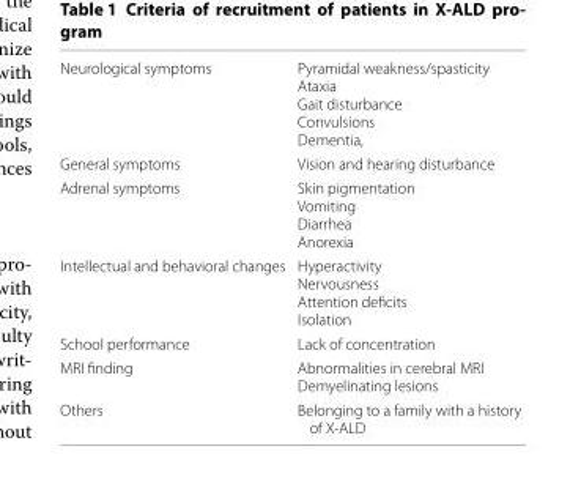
<table><tbody><tr><td>Neurological symptoms</td><td>Pyramidal weakness/spasticity Ataxia Gait disturbance Convulsions Dementia,</td></tr><tr><td>General symptoms</td><td>Vision and hearing disturbance</td></tr><tr><td>Adrenal symptoms</td><td>Skin pigmentation Vomiting Diarrhea Anorexia</td></tr><tr><td>Intellectual and behavioral changes</td><td>Hyperactivity Nervousness Attention deficits Isolation</td></tr><tr><td>School performance</td><td>Lack of concentration</td></tr><tr><td>MRI finding</td><td>Abnormalities in cerebral MRI Demyelinating lesions</td></tr><tr><td>Others</td><td>Belonging to a family with a history of X‑ALD</td></tr></tbody></table>